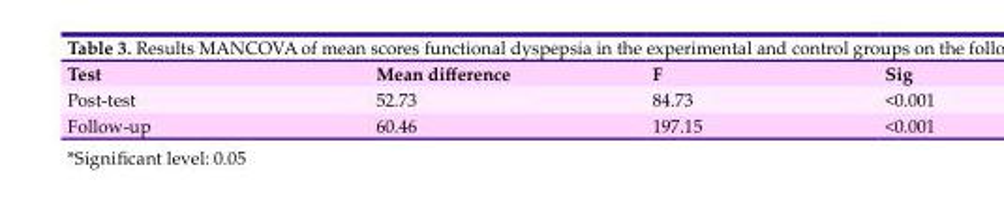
<table><thead><tr><td>Test</td><td>Mean difference</td><td>F</td><td>Sig</td></tr></thead><tbody><tr><td>Post-test</td><td>52.73</td><td>84.73</td><td>&lt;0.001</td></tr><tr><td>Follow-up</td><td>60.46</td><td>197.15</td><td>&lt;0.001</td></tr></tbody></table>